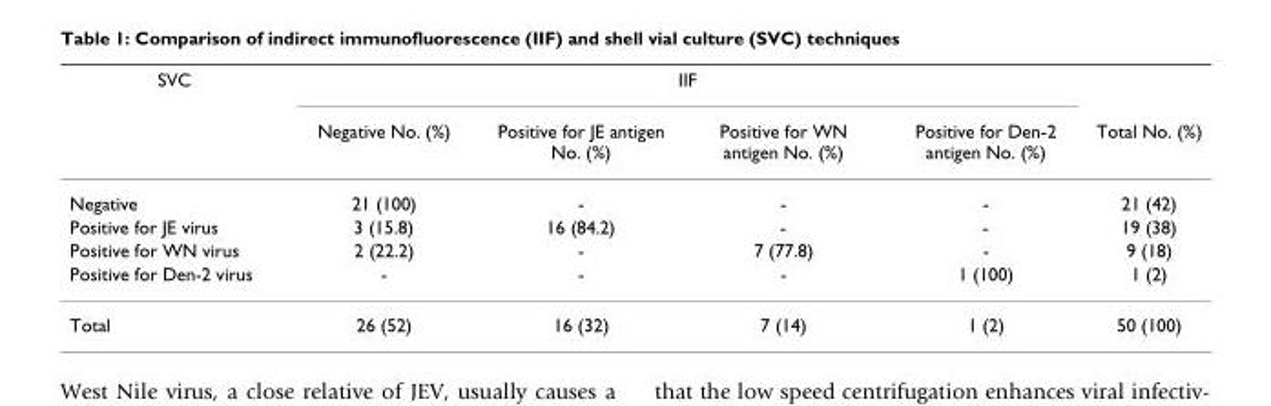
<table><thead><tr><td rowspan="2">SVC</td><td colspan="4">IIF</td><td rowspan="2">Total No. (%)</td></tr><tr><td>Negative No. (%)</td><td>Positive for JE antigen No. (%)</td><td>Positive for WN antigen No. (%)</td><td>Positive for Den-2 antigen No. (%)</td></tr></thead><tbody><tr><td>Negative</td><td>21 (100)</td><td>-</td><td>-</td><td>-</td><td>21 (42)</td></tr><tr><td>Positive for JE virus</td><td>3 (15.8)</td><td>16 (84.2)</td><td>-</td><td>-</td><td>19 (38)</td></tr><tr><td>Positive for WN virus</td><td>2 (22.2)</td><td>-</td><td>7 (77.8)</td><td>-</td><td>9 (18)</td></tr><tr><td>Positive for Den-2 virus</td><td>-</td><td>-</td><td>-</td><td>1 (100)</td><td>1 (2)</td></tr><tr><td>Total</td><td>26 (52)</td><td>16 (32)</td><td>7 (14)</td><td>1 (2)</td><td>50 (100)</td></tr></tbody></table>